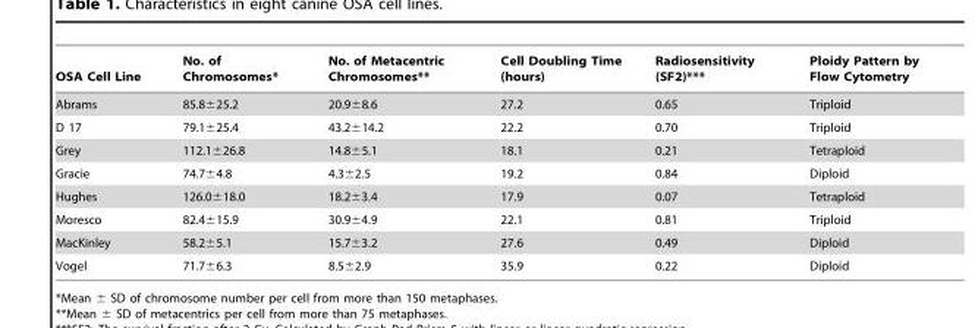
<table><thead><tr><td>OSA Cell Line</td><td>No. of Chromosomes*</td><td>No. of Metacentric Chromosomes**</td><td>Cell Doubling Time (hours)</td><td>Radiosensitivity (SF2)***</td><td>Ploidy Pattern by Flow Cytometry</td></tr></thead><tbody><tr><td>Abrams</td><td>85.8±25.2</td><td>20.9±8.6</td><td>27.2</td><td>0.65</td><td>Triploid</td></tr><tr><td>D 17</td><td>79.1±25.4</td><td>43.2±14.2</td><td>22.2</td><td>0.70</td><td>Triploid</td></tr><tr><td>Grey</td><td>112.1±26.8</td><td>14.8±5.1</td><td>18.1</td><td>0.21</td><td>Tetraploid</td></tr><tr><td>Gracie</td><td>74.7±4.8</td><td>4.3±2.5</td><td>19.2</td><td>0.84</td><td>Diploid</td></tr><tr><td>Hughes</td><td>126.0±18.0</td><td>18.2±3.4</td><td>17.9</td><td>0.07</td><td>Tetraploid</td></tr><tr><td>Moresco</td><td>82.4±15.9</td><td>30.9±4.9</td><td>22.1</td><td>0.81</td><td>Triploid</td></tr><tr><td>MacKinley</td><td>58.2±5.1</td><td>15.7±3.2</td><td>27.6</td><td>0.49</td><td>Diploid</td></tr><tr><td>Vogel</td><td>71.7±6.3</td><td>8.5±2.9</td><td>35.9</td><td>0.22</td><td>Diploid</td></tr></tbody></table>